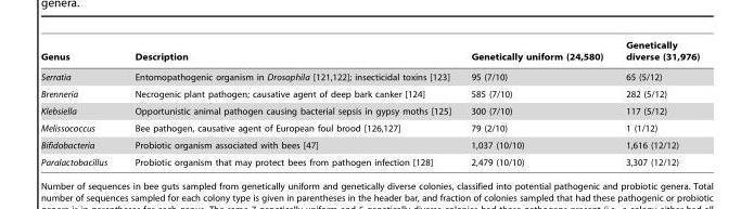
<table><thead><tr><td>Genus</td><td>Description</td><td>Genetically uniform (24,580)</td><td>Genetically diverse (31,976)</td></tr></thead><tbody><tr><td>Serratia</td><td>Entomopathogenic organism in Drosophila [121,122]; insecticidal toxins [123]</td><td>95 (7/10)</td><td>65 (5/12)</td></tr><tr><td>Brenneria</td><td>Necrogenic plant pathogen; causative agent of deep bark canker [124]</td><td>585 (7/10)</td><td>282 (5/12)</td></tr><tr><td>Klebsiella</td><td>Opportunistic animal pathogen causing bacterial sepsis in gypsy moths [125]</td><td>300 (7/10)</td><td>117 (5/12)</td></tr><tr><td>Melissococcus</td><td>Bee pathogen, causative agent of European foul brood [126,127]</td><td>79 (2/10)</td><td>1 (1/12)</td></tr><tr><td>Bifidobacteria</td><td>Probiotic organism associated with bees [47]</td><td>1,037 (10/10)</td><td>1,616 (12/12)</td></tr><tr><td>Paralactobacillus</td><td>Probiotic organism that may protect bees from pathogen infection [128]</td><td>2,479 (10/10)</td><td>3,307 (12/12)</td></tr></tbody></table>